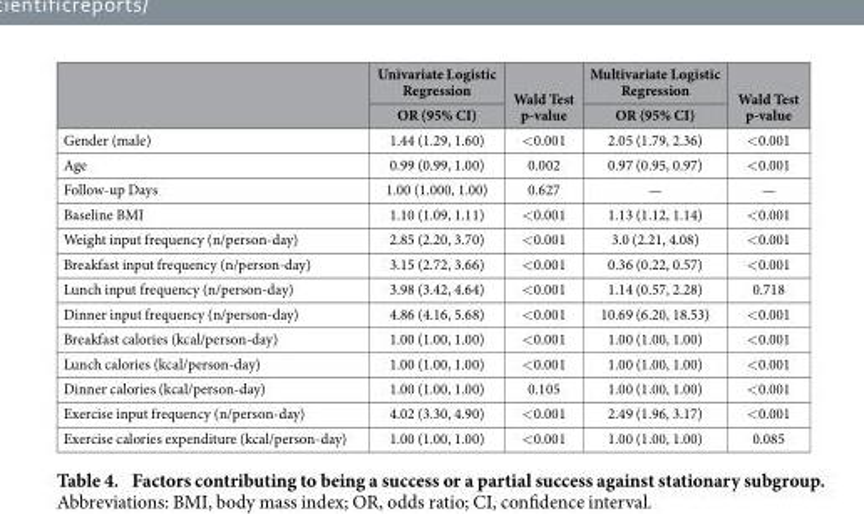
<table><thead><tr><td rowspan="2"></td><td rowspan="2">Univariate Logistic Regression OR (95% CI)</td><td rowspan="2">Wald Test p-value</td><td rowspan="2">Multivariate Logistic Regression OR (95% CI)</td><td rowspan="2">Wald Test p-value</td></tr><tr></tr></thead><tbody><tr><td>Gender (male)</td><td>1.44 (1.29, 1.60)</td><td>&lt; 0.001</td><td>2.05 (1.79, 2.36)</td><td>&lt; 0.001</td></tr><tr><td>Age</td><td>0.99 (0.99, 1.00)</td><td>0.002</td><td>0.97 (0.95, 0.97)</td><td>&lt; 0.001</td></tr><tr><td>Follow-up Days</td><td>1.00 (1.000, 1.00)</td><td>0.627</td><td>—</td><td>—</td></tr><tr><td>Baseline BMI</td><td>1.10 (1.09, 1.11)</td><td>&lt; 0.001</td><td>1.13 (1.12, 1.14)</td><td>&lt; 0.001</td></tr><tr><td>Weight input frequency (n/person-day)</td><td>2.85 (2.20, 3.70)</td><td>&lt; 0.001</td><td>3.0 (2.21, 4.08)</td><td>&lt; 0.001</td></tr><tr><td>Breakfast input frequency (n/person-day)</td><td>3.15 (2.72, 3.66)</td><td>&lt; 0.001</td><td>0.36 (0.22, 0.57)</td><td>&lt; 0.001</td></tr><tr><td>Lunch input frequency (n/person-day)</td><td>3.98 (3.42, 4.64)</td><td>&lt; 0.001</td><td>1.14 (0.57, 2.28)</td><td>0.718</td></tr><tr><td>Dinner input frequency (n/person-day)</td><td>4.86 (4.16, 5.68)</td><td>&lt; 0.001</td><td>10.69 (6.20, 18.53)</td><td>&lt; 0.001</td></tr><tr><td>Breakfast calories (kcal/person-day)</td><td>1.00 (1.00, 1.00)</td><td>&lt; 0.001</td><td>1.00 (1.00, 1.00)</td><td>&lt; 0.001</td></tr><tr><td>Lunch calories (kcal/person-day)</td><td>1.00 (1.00, 1.00)</td><td>&lt; 0.001</td><td>1.00 (1.00, 1.00)</td><td>&lt; 0.001</td></tr><tr><td>Dinner calories (kcal/person-day)</td><td>1.00 (1.00, 1.00)</td><td>0.105</td><td>1.00 (1.00, 1.00)</td><td>&lt; 0.001</td></tr><tr><td>Exercise input frequency (n/person-day)</td><td>4.02 (3.30, 4.90)</td><td>&lt; 0.001</td><td>2.49 (1.96, 3.17)</td><td>&lt; 0.001</td></tr><tr><td>Exercise calories expenditure (kcal/person-day)</td><td>1.00 (1.00, 1.00)</td><td>&lt; 0.001</td><td>1.00 (1.00, 1.00)</td><td>0.085</td></tr></tbody></table>